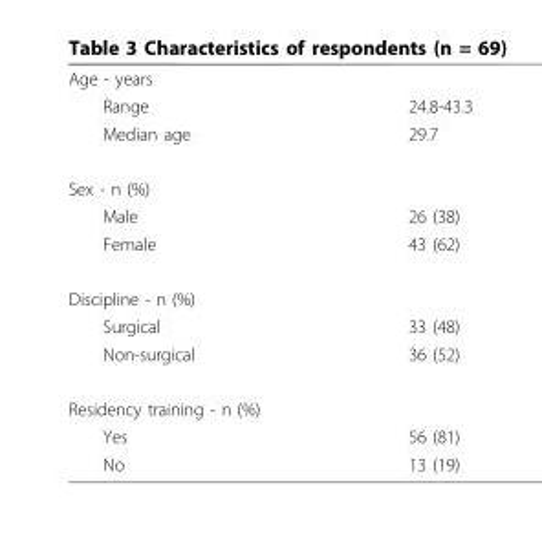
<table><tbody><tr><td colspan="2">Age - years</td></tr><tr><td>Range</td><td>24.8-43.3</td></tr><tr><td>Median age</td><td>29.7</td></tr><tr><td colspan="2">Sex - n (%)</td></tr><tr><td>Male</td><td>26 (38)</td></tr><tr><td>Female</td><td>43 (62)</td></tr><tr><td colspan="2">Discipline - n (%)</td></tr><tr><td>Surgical</td><td>33 (48)</td></tr><tr><td>Non-surgical</td><td>36 (52)</td></tr><tr><td colspan="2">Residency training - n (%)</td></tr><tr><td>Yes</td><td>56 (81)</td></tr><tr><td>No</td><td>13 (19)</td></tr></tbody></table>